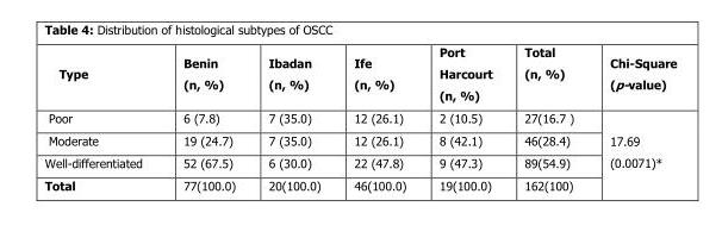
<table><thead><tr><td>Type</td><td>Benin (n, %)</td><td>Ibadan (n, %)</td><td>Ife (n, %)</td><td>Port Harcourt (n, %)</td><td>Total (n, %)</td><td>Chi-Square (p-value)</td></tr></thead><tbody><tr><td>Poor</td><td>6 (7.8)</td><td>7 (35.0)</td><td>12 (26.1)</td><td>2 (10.5)</td><td>27(16.7 )</td><td rowspan="4">17.69 (0.0071)*</td></tr><tr><td>Moderate</td><td>19 (24.7)</td><td>7 (35.0)</td><td>12 (26.1)</td><td>8 (42.1)</td><td>46(28.4)</td></tr><tr><td>Well-differentiated</td><td>52 (67.5)</td><td>6 (30.0)</td><td>22 (47.8)</td><td>9 (47.3)</td><td>89(54.9)</td></tr><tr><td>Total</td><td>77(100.0)</td><td>20(100.0)</td><td>46(100.0)</td><td>19(100.0)</td><td>162(100)</td></tr></tbody></table>